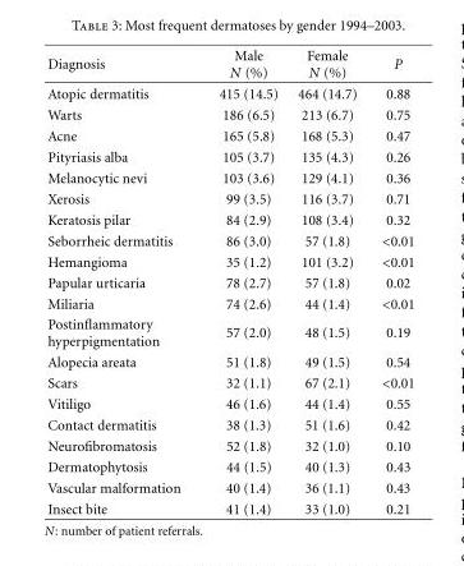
<table><thead><tr><td>Diagnosis</td><td>Male N (%)</td><td>Female N (%)</td><td>P</td></tr></thead><tbody><tr><td>Atopic dermatitis</td><td>415 (14.5)</td><td>464 (14.7)</td><td>0.88</td></tr><tr><td>Warts</td><td>186 (6.5)</td><td>213 (6.7)</td><td>0.75</td></tr><tr><td>Acne</td><td>165 (5.8)</td><td>168 (5.3)</td><td>0.47</td></tr><tr><td>Pityriasis alba</td><td>105 (3.7)</td><td>135 (4.3)</td><td>0.26</td></tr><tr><td>Melanocytic nevi</td><td>103 (3.6)</td><td>129 (4.1)</td><td>0.36</td></tr><tr><td>Xerosis</td><td>99 (3.5)</td><td>116 (3.7)</td><td>0.71</td></tr><tr><td>Keratosis pilar</td><td>84 (2.9)</td><td>108 (3.4)</td><td>0.32</td></tr><tr><td>Seborrheic dermatitis</td><td>86 (3.0)</td><td>57 (1.8)</td><td>&lt;0.01</td></tr><tr><td>Hemangioma</td><td>35 (1.2)</td><td>101 (3.2)</td><td>&lt;0.01</td></tr><tr><td>Papular urticaria</td><td>78 (2.7)</td><td>57 (1.8)</td><td>0.02</td></tr><tr><td>Miliaria</td><td>74 (2.6)</td><td>44 (1.4)</td><td>&lt;0.01</td></tr><tr><td>Postinflammatory hyperpigmentation</td><td>57 (2.0)</td><td>48 (1.5)</td><td>0.19</td></tr><tr><td>Alopecia areata</td><td>51 (1.8)</td><td>49 (1.5)</td><td>0.54</td></tr><tr><td>Scars</td><td>32 (1.1)</td><td>67 (2.1)</td><td>&lt;0.01</td></tr><tr><td>Vitiligo</td><td>46 (1.6)</td><td>44 (1.4)</td><td>0.55</td></tr><tr><td>Contact dermatitis</td><td>38 (1.3)</td><td>51 (1.6)</td><td>0.42</td></tr><tr><td>Neurofibromatosis</td><td>52 (1.8)</td><td>32 (1.0)</td><td>0.10</td></tr><tr><td>Dermatophytosis</td><td>44 (1.5)</td><td>40 (1.3)</td><td>0.43</td></tr><tr><td>Vascular malformation</td><td>40 (1.4)</td><td>36 (1.1)</td><td>0.43</td></tr><tr><td>Insect bite</td><td>41 (1.4)</td><td>33 (1.0)</td><td>0.21</td></tr></tbody></table>